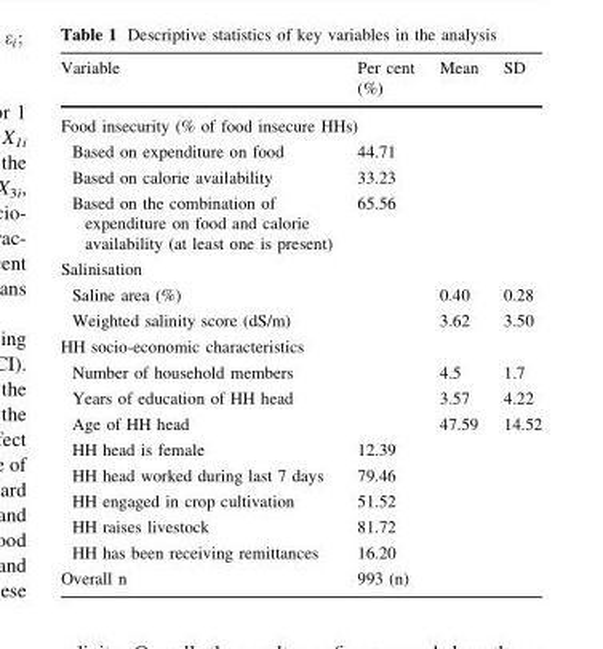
<table><thead><tr><td>Variable</td><td>Per cent (%)</td><td>Mean</td><td>SD</td></tr></thead><tbody><tr><td colspan="4">Food insecurity (% of food insecure HHs)</td></tr><tr><td>Based on expenditure on food</td><td>44.71</td><td></td><td></td></tr><tr><td>Based on calorie availability</td><td>33.23</td><td></td><td></td></tr><tr><td>Based on the combination of expenditure on food and calorie availability (at least one is present)</td><td>65.56</td><td></td><td></td></tr><tr><td colspan="4">Salinisation</td></tr><tr><td>Saline area (%)</td><td></td><td>0.40</td><td>0.28</td></tr><tr><td>Weighted salinity score (dS/m)</td><td></td><td>3.62</td><td>3.50</td></tr><tr><td colspan="4">HH socio-economic characteristics</td></tr><tr><td>Number of household members</td><td></td><td>4.5</td><td>1.7</td></tr><tr><td>Years of education of HH head</td><td></td><td>3.57</td><td>4.22</td></tr><tr><td>Age of HH head</td><td></td><td>47.59</td><td>14.52</td></tr><tr><td>HH head is female</td><td>12.39</td><td></td><td></td></tr><tr><td>HH head worked during last 7 days</td><td>79.46</td><td></td><td></td></tr><tr><td>HH engaged in crop cultivation</td><td>51.52</td><td></td><td></td></tr><tr><td>HH raises livestock</td><td>81.72</td><td></td><td></td></tr><tr><td>HH has been receiving remittances</td><td>16.20</td><td></td><td></td></tr><tr><td>Overall n</td><td>993 (n)</td><td></td><td></td></tr></tbody></table>